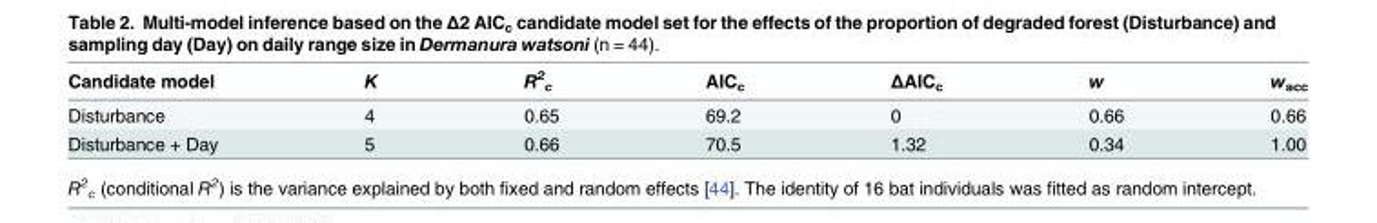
<table><thead><tr><td>Candidate model</td><td>K</td><td>R<sup>2</sup> <sub>c</sub></td><td>AIC<sub>c</sub></td><td>ΔAIC<sub>c</sub></td><td>w</td><td>w<sub>acc</sub></td></tr></thead><tbody><tr><td>Disturbance</td><td>4</td><td>0.65</td><td>69.2</td><td>0</td><td>0.66</td><td>0.66</td></tr><tr><td>Disturbance + Day</td><td>5</td><td>0.66</td><td>70.5</td><td>1.32</td><td>0.34</td><td>1.00</td></tr></tbody></table>